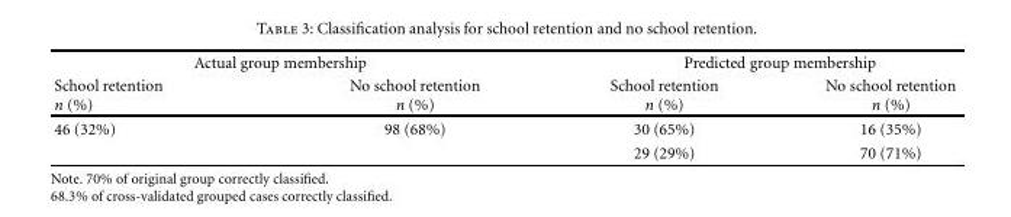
<table><thead><tr><td colspan="2">Actual group membership</td><td colspan="2">Predicted group membership</td></tr><tr><td>School retention n (%)</td><td>No school retention n (%)</td><td>School retention n (%)</td><td>No school retention n (%)</td></tr></thead><tbody><tr><td rowspan="2">46 (32%)</td><td>98 (68%)</td><td>30 (65%)</td><td>16 (35%)</td></tr><tr><td></td><td>29 (29%)</td><td>70 (71%)</td></tr></tbody></table>